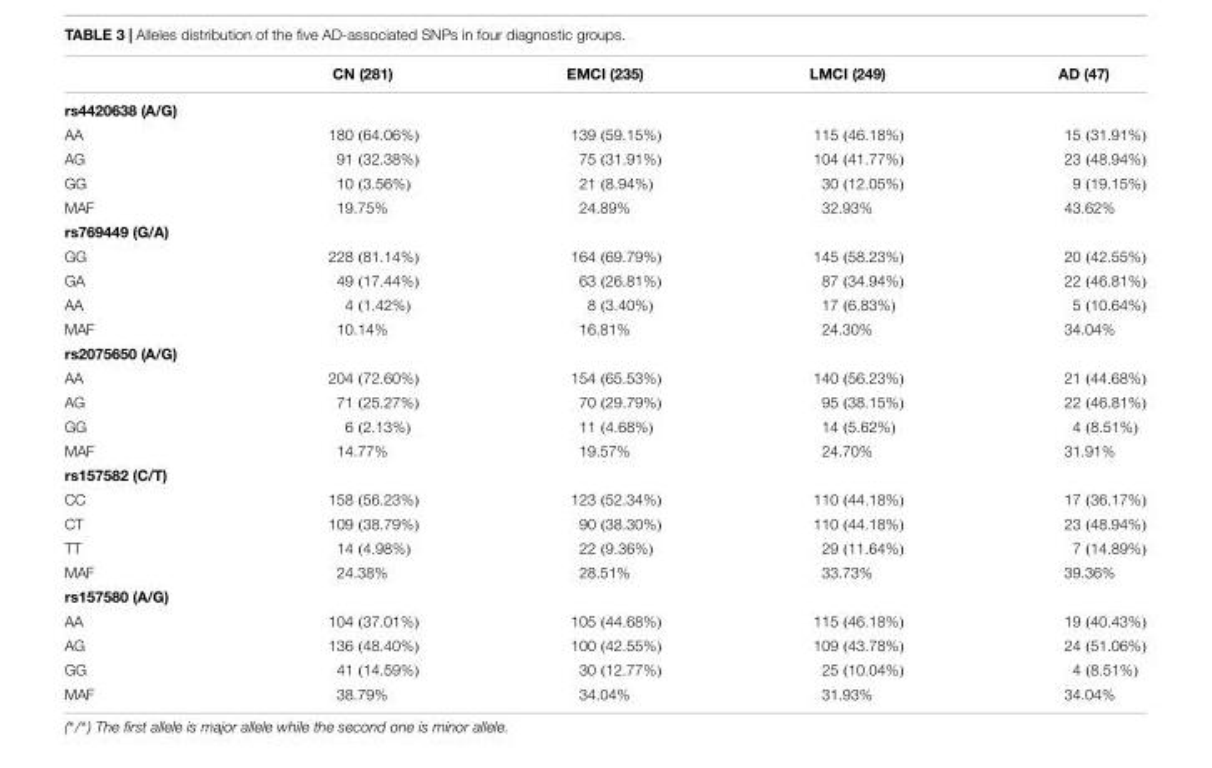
<table><thead><tr><td></td><td>CN (281)</td><td>EMCI (235)</td><td>LMCI (249)</td><td>AD (47)</td></tr></thead><tbody><tr><td colspan="5">rs4420638 (A/G)</td></tr><tr><td>AA</td><td>180 (64.06%)</td><td>139 (59.15%)</td><td>115 (46.18%)</td><td>15 (31.91%)</td></tr><tr><td>AG</td><td>91 (32.38%)</td><td>75 (31.91%)</td><td>104 (41.77%)</td><td>23 (48.94%)</td></tr><tr><td>GG</td><td>10 (3.56%)</td><td>21 (8.94%)</td><td>30 (12.05%)</td><td>9 (19.15%)</td></tr><tr><td>MAF</td><td>19.75%</td><td>24.89%</td><td>32.93%</td><td>43.62%</td></tr><tr><td colspan="5">rs769449 (G/A)</td></tr><tr><td>GG</td><td>228 (81.14%)</td><td>164 (69.79%)</td><td>145 (58.23%)</td><td>20 (42.55%)</td></tr><tr><td>GA</td><td>49 (17.44%)</td><td>63 (26.81%)</td><td>87 (34.94%)</td><td>22 (46.81%)</td></tr><tr><td>AA</td><td>4 (1.42%)</td><td>8 (3.40%)</td><td>17 (6.83%)</td><td>5 (10.64%)</td></tr><tr><td>MAF</td><td>10.14%</td><td>16.81%</td><td>24.30%</td><td>34.04%</td></tr><tr><td colspan="5">rs2075650 (A/G)</td></tr><tr><td>AA</td><td>204 (72.60%)</td><td>154 (65.53%)</td><td>140 (56.23%)</td><td>21 (44.68%)</td></tr><tr><td>AG</td><td>71 (25.27%)</td><td>70 (29.79%)</td><td>95 (38.15%)</td><td>22 (46.81%)</td></tr><tr><td>GG</td><td>6 (2.13%)</td><td>11 (4.68%)</td><td>14 (5.62%)</td><td>4 (8.51%)</td></tr><tr><td>MAF</td><td>14.77%</td><td>19.57%</td><td>24.70%</td><td>31.91%</td></tr><tr><td colspan="5">rs157582 (C/T)</td></tr><tr><td>CC</td><td>158 (56.23%)</td><td>123 (52.34%)</td><td>110 (44.18%)</td><td>17 (36.17%)</td></tr><tr><td>CT</td><td>109 (38.79%)</td><td>90 (38.30%)</td><td>110 (44.18%)</td><td>23 (48.94%)</td></tr><tr><td>TT</td><td>14 (4.98%)</td><td>22 (9.36%)</td><td>29 (11.64%)</td><td>7 (14.89%)</td></tr><tr><td>MAF</td><td>24.38%</td><td>28.51%</td><td>33.73%</td><td>39.36%</td></tr><tr><td colspan="5">rs157580 (A/G)</td></tr><tr><td>AA</td><td>104 (37.01%)</td><td>105 (44.68%)</td><td>115 (46.18%)</td><td>19 (40.43%)</td></tr><tr><td>AG</td><td>136 (48.40%)</td><td>100 (42.55%)</td><td>109 (43.78%)</td><td>24 (51.06%)</td></tr><tr><td>GG</td><td>41 (14.59%)</td><td>30 (12.77%)</td><td>25 (10.04%)</td><td>4 (8.51%)</td></tr><tr><td>MAF</td><td>38.79%</td><td>34.04%</td><td>31.93%</td><td>34.04%</td></tr></tbody></table>